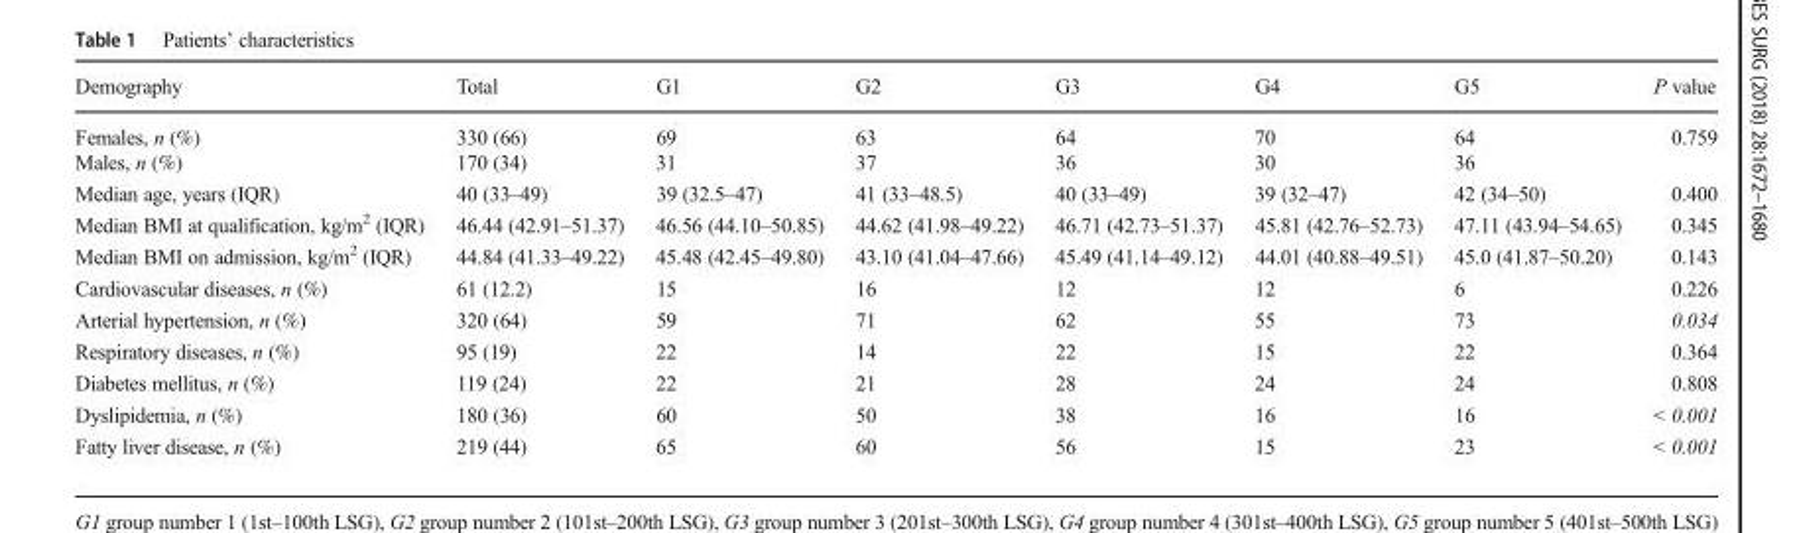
<table><thead><tr><td>Demography</td><td>Total</td><td>G1</td><td>G2</td><td>G3</td><td>G4</td><td>G5</td><td>P value</td></tr></thead><tbody><tr><td>Females, n (%)</td><td>330 (66)</td><td>69</td><td>63</td><td>64</td><td>70</td><td>64</td><td rowspan="2">0.759</td></tr><tr><td>Males, n (%)</td><td>170 (34)</td><td>31</td><td>37</td><td>36</td><td>30</td><td>36</td></tr><tr><td>Median age, years (IQR)</td><td>40 (33–49)</td><td>39 (32.5–47)</td><td>41 (33–48.5)</td><td>40 (33–49)</td><td>39 (32–47)</td><td>42 (34–50)</td><td>0.400</td></tr><tr><td>Median BMI at qualification, kg/m<sup>2</sup> (IQR)</td><td>46.44 (42.91–51.37)</td><td>46.56 (44.10–50.85)</td><td>44.62 (41.98–49.22)</td><td>46.71 (42.73–51.37)</td><td>45.81 (42.76–52.73)</td><td>47.11 (43.94–54.65)</td><td>0.345</td></tr><tr><td>Median BMI on admission, kg/m<sup>2</sup> (IQR)</td><td>44.84 (41.33–49.22)</td><td>45.48 (42.45–49.80)</td><td>43.10 (41.04–47.66)</td><td>45.49 (41.14–49.12)</td><td>44.01 (40.88–49.51)</td><td>45.0 (41.87–50.20)</td><td>0.143</td></tr><tr><td>Cardiovascular diseases, n (%)</td><td>61 (12.2)</td><td>15</td><td>16</td><td>12</td><td>12</td><td>6</td><td>0.226</td></tr><tr><td>Arterial hypertension, n (%)</td><td>320 (64)</td><td>59</td><td>71</td><td>62</td><td>55</td><td>73</td><td>0.034</td></tr><tr><td>Respiratory diseases, n (%)</td><td>95 (19)</td><td>22</td><td>14</td><td>22</td><td>15</td><td>22</td><td>0.364</td></tr><tr><td>Diabetes mellitus, n (%)</td><td>119 (24)</td><td>22</td><td>21</td><td>28</td><td>24</td><td>24</td><td>0.808</td></tr><tr><td>Dyslipidemia, n (%)</td><td>180 (36)</td><td>60</td><td>50</td><td>38</td><td>16</td><td>16</td><td>&lt; 0.001</td></tr><tr><td>Fatty liver disease, n (%)</td><td>219 (44)</td><td>65</td><td>60</td><td>56</td><td>15</td><td>23</td><td>&lt; 0.001</td></tr></tbody></table>